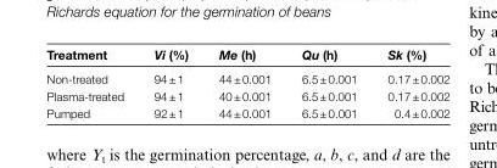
<table><thead><tr><td>Treatment</td><td>Vi (%)</td><td>Me (h)</td><td>Qu (h)</td><td>Sk (%)</td></tr></thead><tbody><tr><td>Non-treated</td><td>94 ± 1</td><td>44 ± 0.001</td><td>6.5 ± 0.001</td><td>0.17 ± 0.002</td></tr><tr><td>Plasma-treated</td><td>94 ± 1</td><td>40 ± 0.001</td><td>6.5 ± 0.001</td><td>0.17 ± 0.002</td></tr><tr><td>Pumped</td><td>92 ± 1</td><td>44 ± 0.001</td><td>6.5 ± 0.001</td><td>0.4 ± 0.002</td></tr></tbody></table>